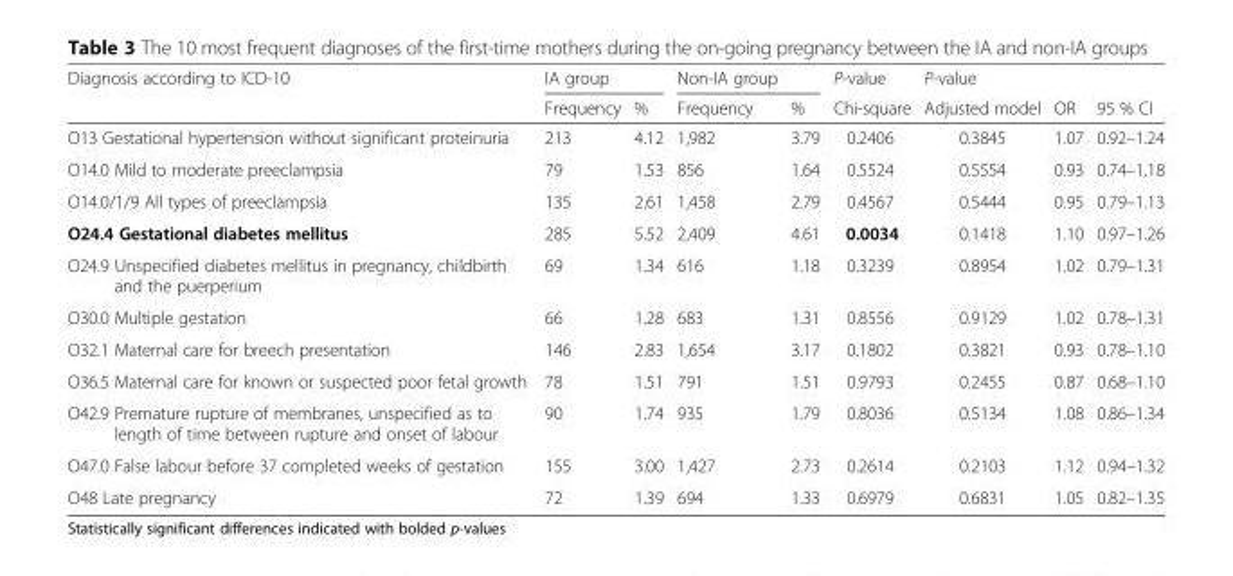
<table><thead><tr><td rowspan="2">Diagnosis according to ICD-10</td><td rowspan="2">IA group Frequency</td><td rowspan="2">%</td><td rowspan="2">Non-IA group Frequency</td><td rowspan="2">%</td><td rowspan="2">P-value Chi-square</td><td rowspan="2">P-value Adjusted model</td><td rowspan="2">OR</td><td rowspan="2">95 % CI</td></tr><tr></tr></thead><tbody><tr><td>O13 Gestational hypertension without significant proteinuria</td><td>213</td><td>4.12</td><td>1,982</td><td>3.79</td><td>0.2406</td><td>0.3845</td><td>1.07</td><td>0.92–1.24</td></tr><tr><td>O14.0 Mild to moderate preeclampsia</td><td>79</td><td>1.53</td><td>856</td><td>1.64</td><td>0.5524</td><td>0.5554</td><td>0.93</td><td>0.74–1.18</td></tr><tr><td>O14.0/1/9 All types of preeclampsia</td><td>135</td><td>2.61</td><td>1,458</td><td>2.79</td><td>0.4567</td><td>0.5444</td><td>0.95</td><td>0.79–1.13</td></tr><tr><td>O24.4 Gestational diabetes mellitus</td><td>285</td><td>5.52</td><td>2,409</td><td>4.61</td><td>0.0034</td><td>0.1418</td><td>1.10</td><td>0.97–1.26</td></tr><tr><td>O24.9 Unspecified diabetes mellitus in pregnancy, childbirth and the puerperium</td><td>69</td><td>1.34</td><td>616</td><td>1.18</td><td>0.3239</td><td>0.8954</td><td>1.02</td><td>0.79–1.31</td></tr><tr><td>O30.0 Multiple gestation</td><td>66</td><td>1.28</td><td>683</td><td>1.31</td><td>0.8556</td><td>0.9129</td><td>1.02</td><td>0.78–1.31</td></tr><tr><td>O32.1 Maternal care for breech presentation</td><td>146</td><td>2.83</td><td>1,654</td><td>3.17</td><td>0.1802</td><td>0.3821</td><td>0.93</td><td>0.78–1.10</td></tr><tr><td>O36.5 Maternal care for known or suspected poor fetal growth</td><td>78</td><td>1.51</td><td>791</td><td>1.51</td><td>0.9793</td><td>0.2455</td><td>0.87</td><td>0.68–1.10</td></tr><tr><td>O42.9 Premature rupture of membranes, unspecified as to length of time between rupture and onset of labour</td><td>90</td><td>1.74</td><td>935</td><td>1.79</td><td>0.8036</td><td>0.5134</td><td>1.08</td><td>0.86–1.34</td></tr><tr><td>O47.0 False labour before 37 completed weeks of gestation</td><td>155</td><td>3.00</td><td>1,427</td><td>2.73</td><td>0.2614</td><td>0.2103</td><td>1.12</td><td>0.94–1.32</td></tr><tr><td>O48 Late pregnancy</td><td>72</td><td>1.39</td><td>694</td><td>1.33</td><td>0.6979</td><td>0.6831</td><td>1.05</td><td>0.82–1.35</td></tr></tbody></table>